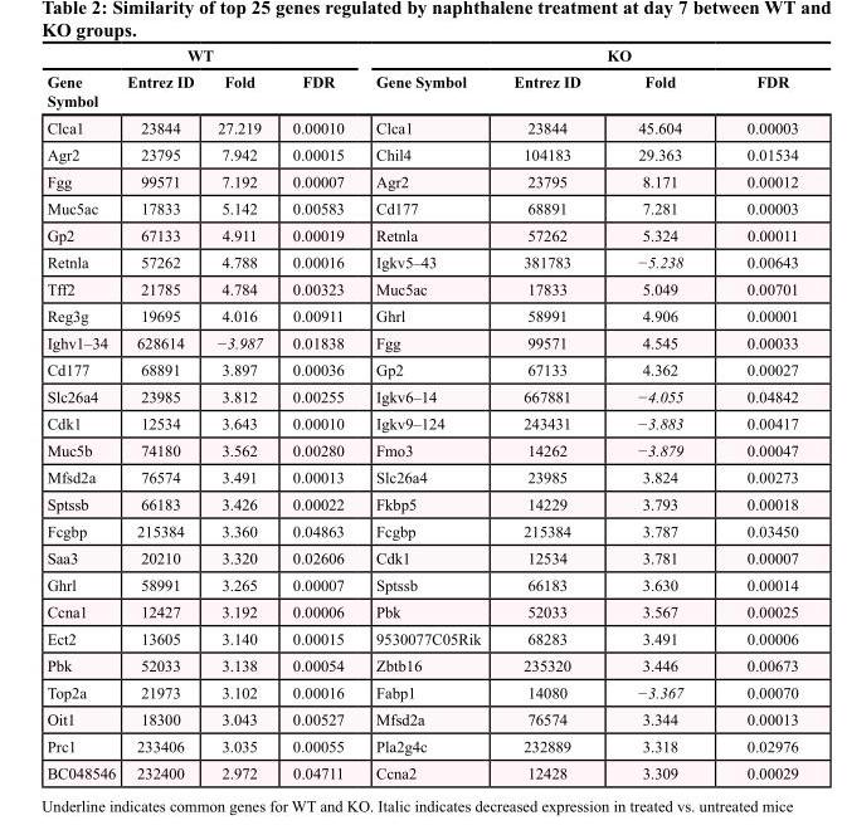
<table><thead><tr><td colspan="4">WT</td><td colspan="4">KO</td></tr><tr><td>Gene Symbol</td><td>Entrez ID</td><td>Fold</td><td>FDR</td><td>Gene Symbol</td><td>Entrez ID</td><td>Fold</td><td>FDR</td></tr></thead><tbody><tr><td>Clca1</td><td>23844</td><td>27.219</td><td>0.00010</td><td>Clca1</td><td>23844</td><td>45.604</td><td>0.00003</td></tr><tr><td>Agr2</td><td>23795</td><td>7.942</td><td>0.00015</td><td>Chil4</td><td>104183</td><td>29.363</td><td>0.01534</td></tr><tr><td>Fgg</td><td>99571</td><td>7.192</td><td>0.00007</td><td>Agr2</td><td>23795</td><td>8.171</td><td>0.00012</td></tr><tr><td>Muc5ac</td><td>17833</td><td>5.142</td><td>0.00583</td><td>Cd177</td><td>68891</td><td>7.281</td><td>0.00003</td></tr><tr><td>Gp2</td><td>67133</td><td>4.911</td><td>0.00019</td><td>Retnla</td><td>57262</td><td>5.324</td><td>0.00011</td></tr><tr><td>Retnla</td><td>57262</td><td>4.788</td><td>0.00016</td><td>Igkv5–43</td><td>381783</td><td>−5.238</td><td>0.00643</td></tr><tr><td>Tff2</td><td>21785</td><td>4.784</td><td>0.00323</td><td>Muc5ac</td><td>17833</td><td>5.049</td><td>0.00701</td></tr><tr><td>Reg3g</td><td>19695</td><td>4.016</td><td>0.00911</td><td>Ghrl</td><td>58991</td><td>4.906</td><td>0.00001</td></tr><tr><td>Ighv1–34</td><td>628614</td><td>−3.987</td><td>0.01838</td><td>Fgg</td><td>99571</td><td>4.545</td><td>0.00033</td></tr><tr><td>Cd177</td><td>68891</td><td>3.897</td><td>0.00036</td><td>Gp2</td><td>67133</td><td>4.362</td><td>0.00027</td></tr><tr><td>Slc26a4</td><td>23985</td><td>3.812</td><td>0.00255</td><td>Igkv6–14</td><td>667881</td><td>−4.055</td><td>0.04842</td></tr><tr><td>Cdk1</td><td>12534</td><td>3.643</td><td>0.00010</td><td>Igkv9–124</td><td>243431</td><td>−3.883</td><td>0.00417</td></tr><tr><td>Muc5b</td><td>74180</td><td>3.562</td><td>0.00280</td><td>Fmo3</td><td>14262</td><td>−3.879</td><td>0.00047</td></tr><tr><td>Mfsd2a</td><td>76574</td><td>3.491</td><td>0.00013</td><td>Slc26a4</td><td>23985</td><td>3.824</td><td>0.00273</td></tr><tr><td>Sptssb</td><td>66183</td><td>3.426</td><td>0.00022</td><td>Fkbp5</td><td>14229</td><td>3.793</td><td>0.00018</td></tr><tr><td>Fcgbp</td><td>215384</td><td>3.360</td><td>0.04863</td><td>Fcgbp</td><td>215384</td><td>3.787</td><td>0.03450</td></tr><tr><td>Saa3</td><td>20210</td><td>3.320</td><td>0.02606</td><td>Cdk1</td><td>12534</td><td>3.781</td><td>0.00007</td></tr><tr><td>Ghrl</td><td>58991</td><td>3.265</td><td>0.00007</td><td>Sptssb</td><td>66183</td><td>3.630</td><td>0.00014</td></tr><tr><td>Ccna1</td><td>12427</td><td>3.192</td><td>0.00006</td><td>Pbk</td><td>52033</td><td>3.567</td><td>0.00025</td></tr><tr><td>Ect2</td><td>13605</td><td>3.140</td><td>0.00015</td><td>9530077C05Rik</td><td>68283</td><td>3.491</td><td>0.00006</td></tr><tr><td>Pbk</td><td>52033</td><td>3.138</td><td>0.00054</td><td>Zbtb16</td><td>235320</td><td>3.446</td><td>0.00673</td></tr><tr><td>Top2a</td><td>21973</td><td>3.102</td><td>0.00016</td><td>Fabp1</td><td>14080</td><td>−3.367</td><td>0.00070</td></tr><tr><td>Oit1</td><td>18300</td><td>3.043</td><td>0.00527</td><td>Mfsd2a</td><td>76574</td><td>3.344</td><td>0.00013</td></tr><tr><td>Prc1</td><td>233406</td><td>3.035</td><td>0.00055</td><td>Pla2g4c</td><td>232889</td><td>3.318</td><td>0.02976</td></tr><tr><td>BC048546</td><td>232400</td><td>2.972</td><td>0.04711</td><td>Ccna2</td><td>12428</td><td>3.309</td><td>0.00029</td></tr></tbody></table>